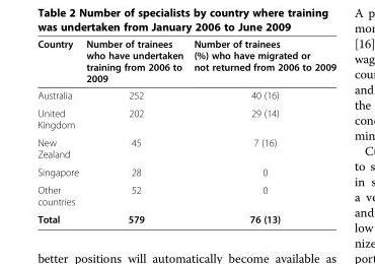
<table><thead><tr><td>Country</td><td>Number of trainees who have undertaken training from 2006 to 2009</td><td>Number of trainees (%) who have migrated or not returned from 2006 to 2009</td></tr></thead><tbody><tr><td>Australia</td><td>252</td><td>40 (16)</td></tr><tr><td>United Kingdom</td><td>202</td><td>29 (14)</td></tr><tr><td>New Zealand</td><td>45</td><td>7 (16)</td></tr><tr><td>Singapore</td><td>28</td><td>0</td></tr><tr><td>Other countries</td><td>52</td><td>0</td></tr><tr><td>Total</td><td>579</td><td>76 (13)</td></tr></tbody></table>